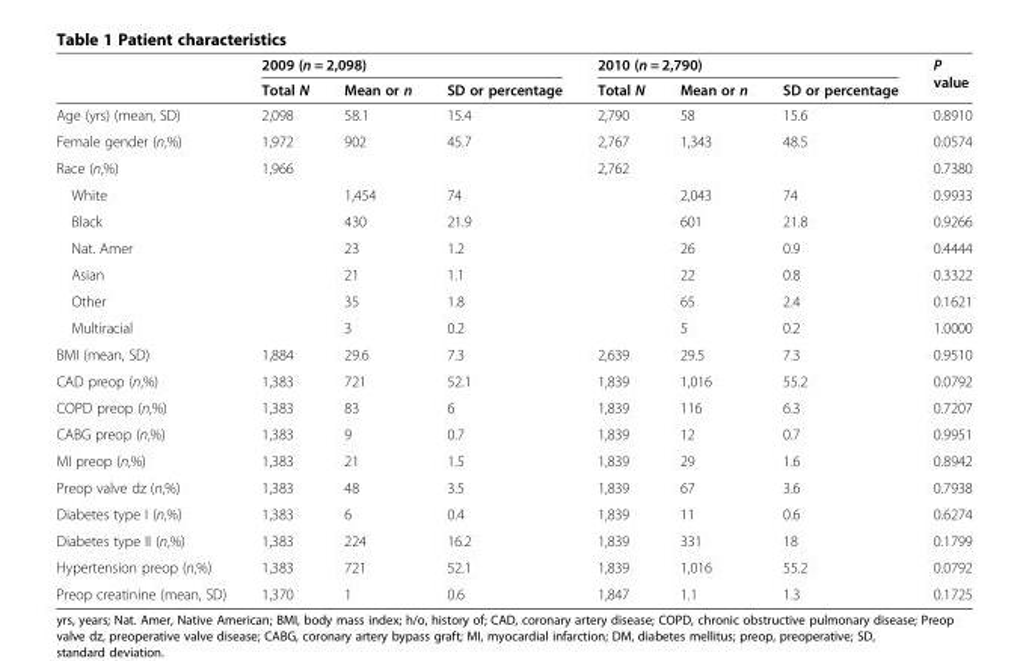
<table><thead><tr><td rowspan="2"></td><td colspan="3">2009 (n = 2,098)</td><td colspan="3">2010 (n = 2,790)</td><td rowspan="2">P value</td></tr><tr><td>Total N</td><td>Mean or n</td><td>SD or percentage</td><td>Total N</td><td>Mean or n</td><td>SD or percentage</td></tr></thead><tbody><tr><td>Age (yrs) (mean, SD)</td><td>2,098</td><td>58.1</td><td>15.4</td><td>2,790</td><td>58</td><td>15.6</td><td>0.8910</td></tr><tr><td>Female gender (n,%)</td><td>1,972</td><td>902</td><td>45.7</td><td>2,767</td><td>1,343</td><td>48.5</td><td>0.0574</td></tr><tr><td>Race (n,%)</td><td>1,966</td><td></td><td></td><td>2,762</td><td></td><td></td><td>0.7380</td></tr><tr><td>White</td><td></td><td>1,454</td><td>74</td><td></td><td>2,043</td><td>74</td><td>0.9933</td></tr><tr><td>Black</td><td></td><td>430</td><td>21.9</td><td></td><td>601</td><td>21.8</td><td>0.9266</td></tr><tr><td>Nat. Amer</td><td></td><td>23</td><td>1.2</td><td></td><td>26</td><td>0.9</td><td>0.4444</td></tr><tr><td>Asian</td><td></td><td>21</td><td>1.1</td><td></td><td>22</td><td>0.8</td><td>0.3322</td></tr><tr><td>Other</td><td></td><td>35</td><td>1.8</td><td></td><td>65</td><td>2.4</td><td>0.1621</td></tr><tr><td>Multiracial</td><td></td><td>3</td><td>0.2</td><td></td><td>5</td><td>0.2</td><td>1.0000</td></tr><tr><td>BMI (mean, SD)</td><td>1,884</td><td>29.6</td><td>7.3</td><td>2,639</td><td>29.5</td><td>7.3</td><td>0.9510</td></tr><tr><td>CAD preop (n,%)</td><td>1,383</td><td>721</td><td>52.1</td><td>1,839</td><td>1,016</td><td>55.2</td><td>0.0792</td></tr><tr><td>COPD preop (n,%)</td><td>1,383</td><td>83</td><td>6</td><td>1,839</td><td>116</td><td>6.3</td><td>0.7207</td></tr><tr><td>CABG preop (n,%)</td><td>1,383</td><td>9</td><td>0.7</td><td>1,839</td><td>12</td><td>0.7</td><td>0.9951</td></tr><tr><td>MI preop (n,%)</td><td>1,383</td><td>21</td><td>1.5</td><td>1,839</td><td>29</td><td>1.6</td><td>0.8942</td></tr><tr><td>Preop valve dz (n,%)</td><td>1,383</td><td>48</td><td>3.5</td><td>1,839</td><td>67</td><td>3.6</td><td>0.7938</td></tr><tr><td>Diabetes type I (n,%)</td><td>1,383</td><td>6</td><td>0.4</td><td>1,839</td><td>11</td><td>0.6</td><td>0.6274</td></tr><tr><td>Diabetes type II (n,%)</td><td>1,383</td><td>224</td><td>16.2</td><td>1,839</td><td>331</td><td>18</td><td>0.1799</td></tr><tr><td>Hypertension preop (n,%)</td><td>1,383</td><td>721</td><td>52.1</td><td>1,839</td><td>1,016</td><td>55.2</td><td>0.0792</td></tr><tr><td>Preop creatinine (mean, SD)</td><td>1,370</td><td>1</td><td>0.6</td><td>1,847</td><td>1.1</td><td>1.3</td><td>0.1725</td></tr></tbody></table>